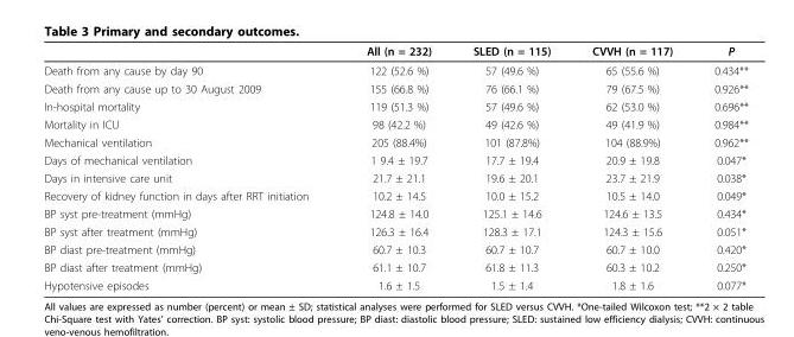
<table><thead><tr><td></td><td>All (n = 232)</td><td>SLED (n = 115)</td><td>CVVH (n = 117)</td><td>P</td></tr></thead><tbody><tr><td>Death from any cause by day 90</td><td>122 (52.6 %)</td><td>57 (49.6 %)</td><td>65 (55.6 %)</td><td>0.434**</td></tr><tr><td>Death from any cause up to 30 August 2009</td><td>155 (66.8 %)</td><td>76 (66.1 %)</td><td>79 (67.5 %)</td><td>0.926**</td></tr><tr><td>In-hospital mortality</td><td>119 (51.3 %)</td><td>57 (49.6 %)</td><td>62 (53.0 %)</td><td>0.696**</td></tr><tr><td>Mortality in ICU</td><td>98 (42.2 %)</td><td>49 (42.6 %)</td><td>49 (41.9 %)</td><td>0.984**</td></tr><tr><td>Mechanical ventilation</td><td>205 (88.4%)</td><td>101 (87.8%)</td><td>104 (88.9%)</td><td>0.962**</td></tr><tr><td>Days of mechanical ventilation</td><td>1 9.4 ± 19.7</td><td>17.7 ± 19.4</td><td>20.9 ± 19.8</td><td>0.047*</td></tr><tr><td>Days in intensive care unit</td><td>21.7 ± 21.1</td><td>19.6 ± 20.1</td><td>23.7 ± 21.9</td><td>0.038*</td></tr><tr><td>Recovery of kidney function in days after RRT initiation</td><td>10.2 ± 14.5</td><td>10.0 ± 15.2</td><td>10.5 ± 14.0</td><td>0.049*</td></tr><tr><td>BP syst pre-treatment (mmHg)</td><td>124.8 ± 14.0</td><td>125.1 ± 14.6</td><td>124.6 ± 13.5</td><td>0.434*</td></tr><tr><td>BP syst after treatment (mmHg)</td><td>126.3 ± 16.4</td><td>128.3 ± 17.1</td><td>124.3 ± 15.6</td><td>0.051*</td></tr><tr><td>BP diast pre-treatment (mmHg)</td><td>60.7 ± 10.3</td><td>60.7 ± 10.7</td><td>60.7 ± 10.0</td><td>0.420*</td></tr><tr><td>BP diast after treatment (mmHg)</td><td>61.1 ± 10.7</td><td>61.8 ± 11.3</td><td>60.3 ± 10.2</td><td>0.250*</td></tr><tr><td>Hypotensive episodes</td><td>1.6 ± 1.5</td><td>1.5 ± 1.4</td><td>1.8 ± 1.6</td><td>0.077*</td></tr></tbody></table>